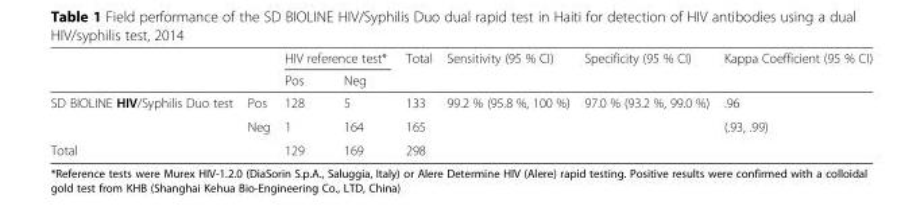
<table><thead><tr><td rowspan="2"></td><td rowspan="2"></td><td colspan="2">HIV reference test*</td><td rowspan="2">Total</td><td rowspan="2">Sensitivity (95 % CI)</td><td rowspan="2">Specificity (95 % CI)</td><td rowspan="2">Kappa Coefficient (95 % CI)</td></tr><tr><td>Pos</td><td>Neg</td></tr></thead><tbody><tr><td rowspan="2">SD BIOLINE HIV/Syphilis Duo test</td><td>Pos</td><td>128</td><td>5</td><td>133</td><td>99.2 % (95.8 %, 100 %)</td><td>97.0 % (93.2 %, 99.0 %)</td><td>.96</td></tr><tr><td>Neg</td><td>1</td><td>164</td><td>165</td><td></td><td></td><td>(.93, .99)</td></tr><tr><td colspan="2">Total</td><td>129</td><td>169</td><td>298</td><td></td><td></td><td></td></tr></tbody></table>